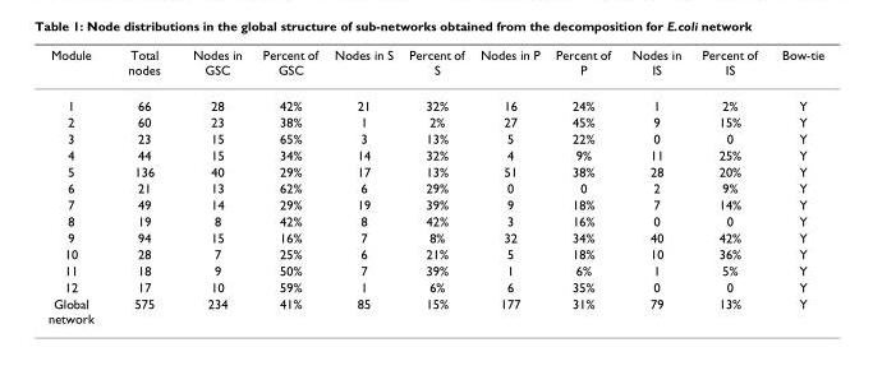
<table><thead><tr><td>Module</td><td>Total nodes</td><td>Nodes in GSC</td><td>Percent of GSC</td><td>Nodes in S</td><td>Percent of S</td><td>Nodes in P</td><td>Percent of P</td><td>Nodes in IS</td><td>Percent of IS</td><td>Bow-tie</td></tr></thead><tbody><tr><td>1</td><td>66</td><td>28</td><td>42%</td><td>21</td><td>32%</td><td>16</td><td>24%</td><td>1</td><td>2%</td><td>Y</td></tr><tr><td>2</td><td>60</td><td>23</td><td>38%</td><td>1</td><td>2%</td><td>27</td><td>45%</td><td>9</td><td>15%</td><td>Y</td></tr><tr><td>3</td><td>23</td><td>15</td><td>65%</td><td>3</td><td>13%</td><td>5</td><td>22%</td><td>0</td><td>0</td><td>Y</td></tr><tr><td>4</td><td>44</td><td>15</td><td>34%</td><td>14</td><td>32%</td><td>4</td><td>9%</td><td>11</td><td>25%</td><td>Y</td></tr><tr><td>5</td><td>136</td><td>40</td><td>29%</td><td>17</td><td>13%</td><td>51</td><td>38%</td><td>28</td><td>20%</td><td>Y</td></tr><tr><td>6</td><td>21</td><td>13</td><td>62%</td><td>6</td><td>29%</td><td>0</td><td>0</td><td>2</td><td>9%</td><td>Y</td></tr><tr><td>7</td><td>49</td><td>14</td><td>29%</td><td>19</td><td>39%</td><td>9</td><td>18%</td><td>7</td><td>14%</td><td>Y</td></tr><tr><td>8</td><td>19</td><td>8</td><td>42%</td><td>8</td><td>42%</td><td>3</td><td>16%</td><td>0</td><td>0</td><td>Y</td></tr><tr><td>9</td><td>94</td><td>15</td><td>16%</td><td>7</td><td>8%</td><td>32</td><td>34%</td><td>40</td><td>42%</td><td>Y</td></tr><tr><td>10</td><td>28</td><td>7</td><td>25%</td><td>6</td><td>21%</td><td>5</td><td>18%</td><td>10</td><td>36%</td><td>Y</td></tr><tr><td>11</td><td>18</td><td>9</td><td>50%</td><td>7</td><td>39%</td><td>1</td><td>6%</td><td>1</td><td>5%</td><td>Y</td></tr><tr><td>12</td><td>17</td><td>10</td><td>59%</td><td>1</td><td>6%</td><td>6</td><td>35%</td><td>0</td><td>0</td><td>Y</td></tr><tr><td>Global network</td><td>575</td><td>234</td><td>41%</td><td>85</td><td>15%</td><td>177</td><td>31%</td><td>79</td><td>13%</td><td>Y</td></tr></tbody></table>